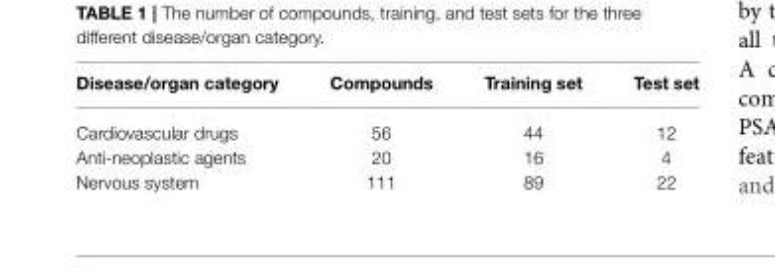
<table><thead><tr><td>Disease/organ category</td><td>Compounds</td><td>Training set</td><td>Test set</td></tr></thead><tbody><tr><td>Cardiovascular drugs</td><td>56</td><td>44</td><td>12</td></tr><tr><td>Anti-neoplastic agents</td><td>20</td><td>16</td><td>4</td></tr><tr><td>Nervous system</td><td>111</td><td>89</td><td>22</td></tr></tbody></table>